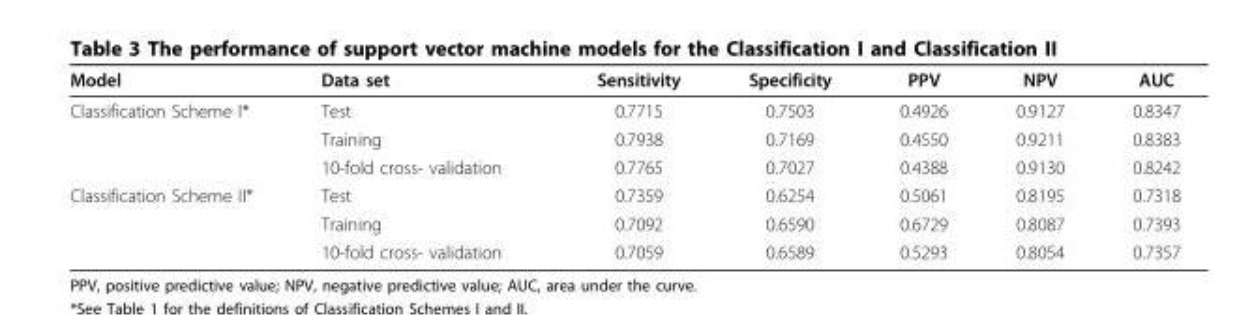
<table><thead><tr><td>Model</td><td>Data set</td><td>Sensitivity</td><td>Specificity</td><td>PPV</td><td>NPV</td><td>AUC</td></tr></thead><tbody><tr><td rowspan="3">Classification Scheme I*</td><td>Test</td><td>0.7715</td><td>0.7503</td><td>0.4926</td><td>0.9127</td><td>0.8347</td></tr><tr><td>Training</td><td>0.7938</td><td>0.7169</td><td>0.4550</td><td>0.9211</td><td>0.8383</td></tr><tr><td>10-fold cross- validation</td><td>0.7765</td><td>0.7027</td><td>0.4388</td><td>0.9130</td><td>0.8242</td></tr><tr><td rowspan="3">Classification Scheme II*</td><td>Test</td><td>0.7359</td><td>0.6254</td><td>0.5061</td><td>0.8195</td><td>0.7318</td></tr><tr><td>Training</td><td>0.7092</td><td>0.6590</td><td>0.6729</td><td>0.8087</td><td>0.7393</td></tr><tr><td>10-fold cross- validation</td><td>0.7059</td><td>0.6589</td><td>0.5293</td><td>0.8054</td><td>0.7357</td></tr></tbody></table>